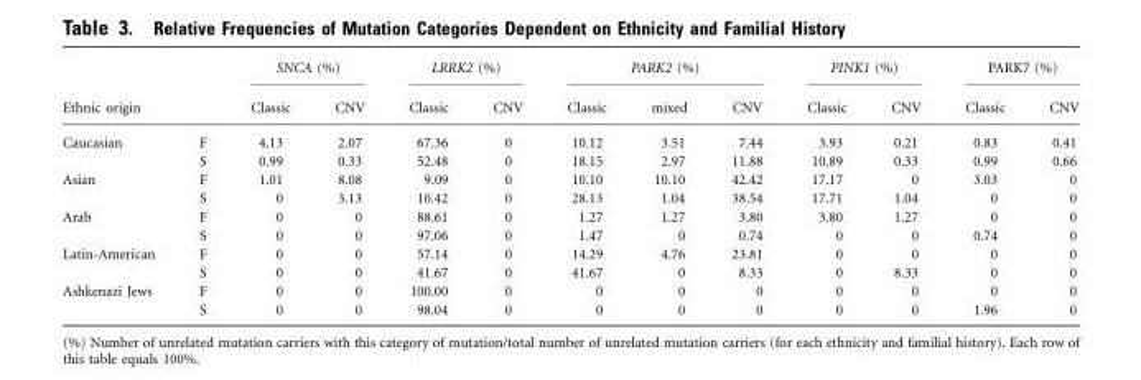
<table><thead><tr><td rowspan="2">Ethnic origin</td><td rowspan="2"></td><td colspan="2">SNCA (%)</td><td colspan="2">LRRK2 (%)</td><td colspan="3">PARK2 (%)</td><td colspan="2">PINK1 (%)</td><td colspan="2">PARK7 (%)</td></tr><tr><td>Classic</td><td>CNV</td><td>Classic</td><td>CNV</td><td>Classic</td><td>mixed</td><td>CNV</td><td>Classic</td><td>CNV</td><td>Classic</td><td>CNV</td></tr></thead><tbody><tr><td rowspan="2">Caucasian</td><td>F</td><td>4.13</td><td>2.07</td><td>67.36</td><td>0</td><td>10.12</td><td>3.51</td><td>7.44</td><td>3.93</td><td>0.21</td><td>0.83</td><td>0.41</td></tr><tr><td>S</td><td>0.99</td><td>0.33</td><td>52.48</td><td>0</td><td>18.15</td><td>2.97</td><td>11.88</td><td>10.89</td><td>0.33</td><td>0.99</td><td>0.66</td></tr><tr><td rowspan="2">Asian</td><td>F</td><td>1.01</td><td>8.08</td><td>9.09</td><td>0</td><td>10.10</td><td>10.10</td><td>42.42</td><td>17.17</td><td>0</td><td>3.03</td><td>0</td></tr><tr><td>S</td><td>0</td><td>3.13</td><td>10.42</td><td>0</td><td>28.13</td><td>1.04</td><td>38.54</td><td>17.71</td><td>1.04</td><td>0</td><td>0</td></tr><tr><td rowspan="2">Arab</td><td>F</td><td>0</td><td>0</td><td>88.61</td><td>0</td><td>1.27</td><td>1.27</td><td>3.80</td><td>3.80</td><td>1.27</td><td>0</td><td>0</td></tr><tr><td>S</td><td>0</td><td>0</td><td>97.06</td><td>0</td><td>1.47</td><td>0</td><td>0.74</td><td>0</td><td>0</td><td>0.74</td><td>0</td></tr><tr><td rowspan="2">Latin-American</td><td>F</td><td>0</td><td>0</td><td>57.14</td><td>0</td><td>14.29</td><td>4.76</td><td>23.81</td><td>0</td><td>0</td><td>0</td><td>0</td></tr><tr><td>S</td><td>0</td><td>0</td><td>41.67</td><td>0</td><td>41.67</td><td>0</td><td>8.33</td><td>0</td><td>8.33</td><td>0</td><td>0</td></tr><tr><td rowspan="2">Ashkenazi Jews</td><td>F</td><td>0</td><td>0</td><td>100.00</td><td>0</td><td>0</td><td>0</td><td>0</td><td>0</td><td>0</td><td>0</td><td>0</td></tr><tr><td>S</td><td>0</td><td>0</td><td>98.04</td><td>0</td><td>0</td><td>0</td><td>0</td><td>0</td><td>0</td><td>1.96</td><td>0</td></tr></tbody></table>